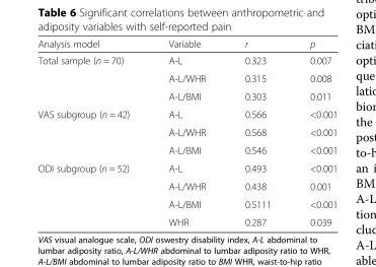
<table><thead><tr><td>Analysis model</td><td>Variable</td><td>r</td><td>p</td></tr></thead><tbody><tr><td rowspan="3">Total sample (n = 70)</td><td>A-L</td><td>0.323</td><td>0.007</td></tr><tr><td>A-L/WHR</td><td>0.315</td><td>0.008</td></tr><tr><td>A-L/BMI</td><td>0.303</td><td>0.011</td></tr><tr><td rowspan="3">VAS subgroup (n = 42)</td><td>A-L</td><td>0.566</td><td>&lt;0.001</td></tr><tr><td>A-L/WHR</td><td>0.568</td><td>&lt;0.001</td></tr><tr><td>A-L/BMI</td><td>0.546</td><td>&lt;0.001</td></tr><tr><td rowspan="4">ODI subgroup (n = 52)</td><td>A-L</td><td>0.493</td><td>&lt;0.001</td></tr><tr><td>A-L/WHR</td><td>0.438</td><td>0.001</td></tr><tr><td>A-L/BMI</td><td>0.5111</td><td>&lt;0.001</td></tr><tr><td>WHR</td><td>0.287</td><td>0.039</td></tr></tbody></table>